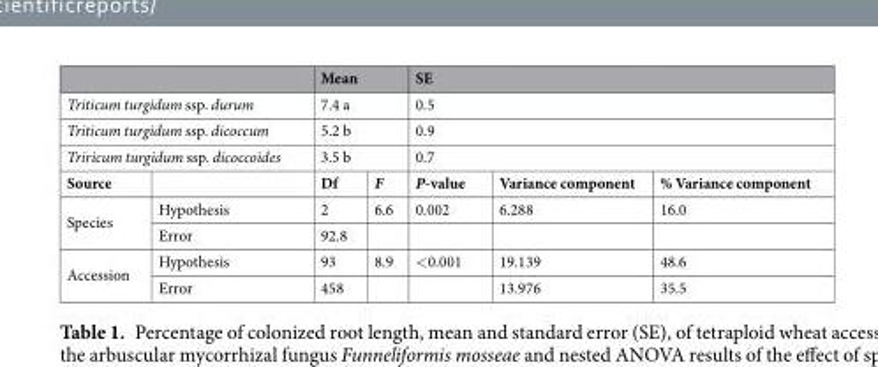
<table><thead><tr><td></td><td></td><td colspan="2">Mean</td><td colspan="3">SE</td></tr></thead><tbody><tr><td colspan="2">Triticum turgidum ssp. durum</td><td colspan="2">7.4 a</td><td colspan="3">0.5</td></tr><tr><td colspan="2">Triticum turgidum ssp. dicoccum</td><td colspan="2">5.2 b</td><td colspan="3">0.9</td></tr><tr><td colspan="2">Triricum turgidum ssp. dicoccoides</td><td colspan="2">3.5 b</td><td colspan="3">0.7</td></tr><tr><td>Source</td><td></td><td>Df</td><td>F</td><td>P-value</td><td>Variance component</td><td>% Variance component</td></tr><tr><td rowspan="2">Species</td><td>Hypothesis</td><td>2</td><td>6.6</td><td>0.002</td><td>6.288</td><td>16.0</td></tr><tr><td>Error</td><td>92.8</td><td></td><td></td><td></td><td></td></tr><tr><td rowspan="2">Accession</td><td>Hypothesis</td><td>93</td><td>8.9</td><td>&lt;0.001</td><td>19.139</td><td>48.6</td></tr><tr><td>Error</td><td>458</td><td></td><td></td><td>13.976</td><td>35.5</td></tr></tbody></table>